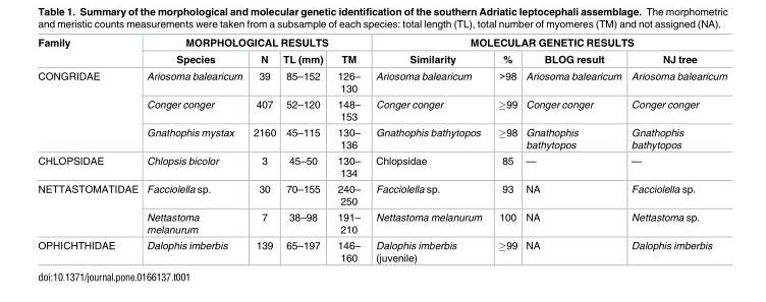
<table><thead><tr><td rowspan="2">Family</td><td colspan="4">MORPHOLOGICAL RESULTS</td><td colspan="4">MOLECULAR GENETIC RESULTS</td></tr><tr><td>Species</td><td>N</td><td>TL (mm)</td><td>TM</td><td>Similarity</td><td>%</td><td>BLOG result</td><td>NJ tree</td></tr></thead><tbody><tr><td rowspan="3">CONGRIDAE</td><td>Ariosoma balearicum</td><td>39</td><td>85–152</td><td>126– 130</td><td>Ariosoma balearicum</td><td>&gt;98</td><td>Ariosoma balearicum</td><td>Ariosoma balearicum</td></tr><tr><td>Conger conger</td><td>407</td><td>52–120</td><td>148– 153</td><td>Conger conger</td><td>≥99</td><td>Conger conger</td><td>Conger conger</td></tr><tr><td>Gnathophis mystax</td><td>2160</td><td>45–115</td><td>130– 136</td><td>Gnathophis bathytopos</td><td>≥98</td><td>Gnathophis bathytopos</td><td>Gnathophis bathytopos</td></tr><tr><td>CHLOPSIDAE</td><td>Chlopsis bicolor</td><td>3</td><td>45–50</td><td>130– 134</td><td>Chlopsidae</td><td>85</td><td>—</td><td>—</td></tr><tr><td rowspan="2">NETTASTOMATIDAE</td><td>Facciolella sp.</td><td>30</td><td>70–155</td><td>240– 250</td><td>Facciolella sp.</td><td>93</td><td>NA</td><td>Facciolella sp.</td></tr><tr><td>Nettastoma melanurum</td><td>7</td><td>38–98</td><td>191– 210</td><td>Nettastoma melanurum</td><td>100</td><td>NA</td><td>Nettastoma sp.</td></tr><tr><td>OPHICHTHIDAE</td><td>Dalophis imberbis</td><td>139</td><td>65–197</td><td>146– 160</td><td>Dalophis imberbis (juvenile)</td><td>≥99</td><td>NA</td><td>Dalophis imberbis</td></tr></tbody></table>